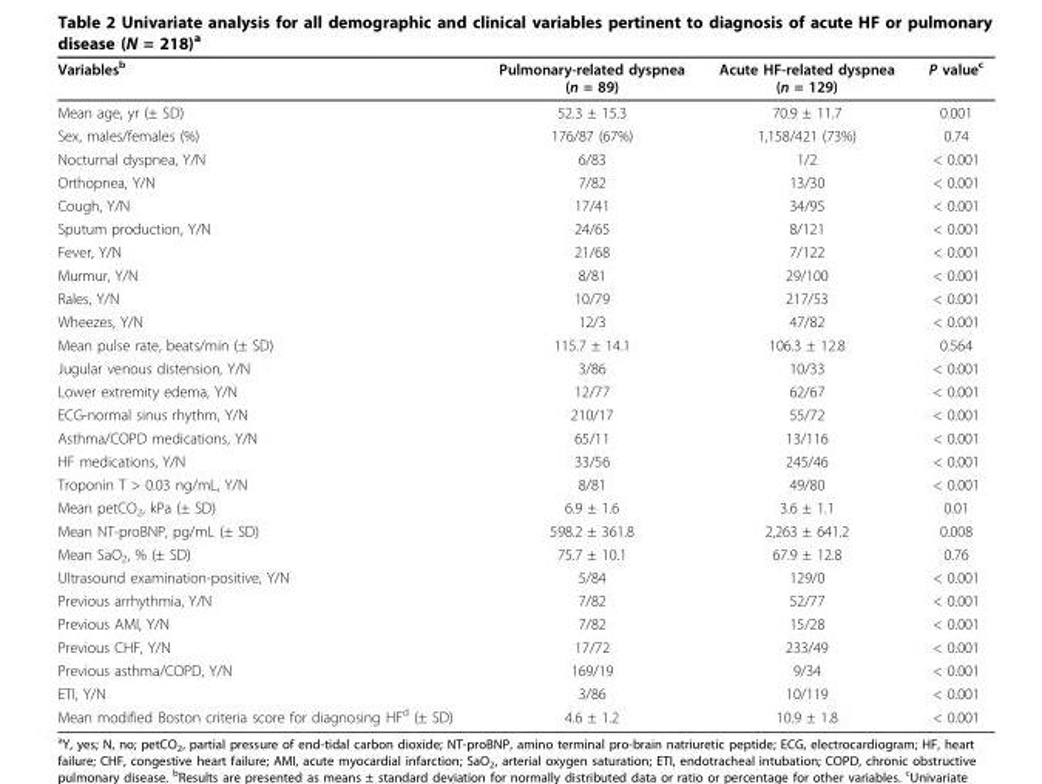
<table><thead><tr><td>Variables<sup>b</sup></td><td>Pulmonary-related dyspnea (n = 89)</td><td>Acute HF-related dyspnea (n = 129)</td><td>P value<sup>c</sup></td></tr></thead><tbody><tr><td>Mean age, yr (± SD)</td><td>52.3 ± 15.3</td><td>70.9 ± 11.7</td><td>0.001</td></tr><tr><td>Sex, males/females (%)</td><td>176/87 (67%)</td><td>1,158/421 (73%)</td><td>0.74</td></tr><tr><td>Nocturnal dyspnea, Y/N</td><td>6/83</td><td>1/2</td><td>&lt; 0.001</td></tr><tr><td>Orthopnea, Y/N</td><td>7/82</td><td>13/30</td><td>&lt; 0.001</td></tr><tr><td>Cough, Y/N</td><td>17/41</td><td>34/95</td><td>&lt; 0.001</td></tr><tr><td>Sputum production, Y/N</td><td>24/65</td><td>8/121</td><td>&lt; 0.001</td></tr><tr><td>Fever, Y/N</td><td>21/68</td><td>7/122</td><td>&lt; 0.001</td></tr><tr><td>Murmur, Y/N</td><td>8/81</td><td>29/100</td><td>&lt; 0.001</td></tr><tr><td>Rales, Y/N</td><td>10/79</td><td>217/53</td><td>&lt; 0.001</td></tr><tr><td>Wheezes, Y/N</td><td>12/3</td><td>47/82</td><td>&lt; 0.001</td></tr><tr><td>Mean pulse rate, beats/min (± SD)</td><td>115.7 ± 14.1</td><td>106.3 ± 12.8</td><td>0.564</td></tr><tr><td>Jugular venous distension, Y/N</td><td>3/86</td><td>10/33</td><td>&lt; 0.001</td></tr><tr><td>Lower extremity edema, Y/N</td><td>12/77</td><td>62/67</td><td>&lt; 0.001</td></tr><tr><td>ECG-normal sinus rhythm, Y/N</td><td>210/17</td><td>55/72</td><td>&lt; 0.001</td></tr><tr><td>Asthma/COPD medications, Y/N</td><td>65/11</td><td>13/116</td><td>&lt; 0.001</td></tr><tr><td>HF medications, Y/N</td><td>33/56</td><td>245/46</td><td>&lt; 0.001</td></tr><tr><td>Troponin T &gt; 0.03 ng/mL, Y/N</td><td>8/81</td><td>49/80</td><td>&lt; 0.001</td></tr><tr><td>Mean petCO<sub>2</sub>, kPa (± SD)</td><td>6.9 ± 1.6</td><td>3.6 ± 1.1</td><td>0.01</td></tr><tr><td>Mean NT-proBNP, pg/mL (± SD)</td><td>598.2 ± 361.8</td><td>2,263 ± 641.2</td><td>0.008</td></tr><tr><td>Mean SaO<sub>2</sub>, % (± SD)</td><td>75.7 ± 10.1</td><td>67.9 ± 12.8</td><td>0.76</td></tr><tr><td>Ultrasound examination-positive, Y/N</td><td>5/84</td><td>129/0</td><td>&lt; 0.001</td></tr><tr><td>Previous arrhythmia, Y/N</td><td>7/82</td><td>52/77</td><td>&lt; 0.001</td></tr><tr><td>Previous AMI, Y/N</td><td>7/82</td><td>15/28</td><td>&lt; 0.001</td></tr><tr><td>Previous CHF, Y/N</td><td>17/72</td><td>233/49</td><td>&lt; 0.001</td></tr><tr><td>Previous asthma/COPD, Y/N</td><td>169/19</td><td>9/34</td><td>&lt; 0.001</td></tr><tr><td>ETI, Y/N</td><td>3/86</td><td>10/119</td><td>&lt; 0.001</td></tr><tr><td>Mean modified Boston criteria score for diagnosing HF<sup>d</sup> (± SD)</td><td>4.6 ± 1.2</td><td>10.9 ± 1.8</td><td>&lt; 0.001</td></tr></tbody></table>